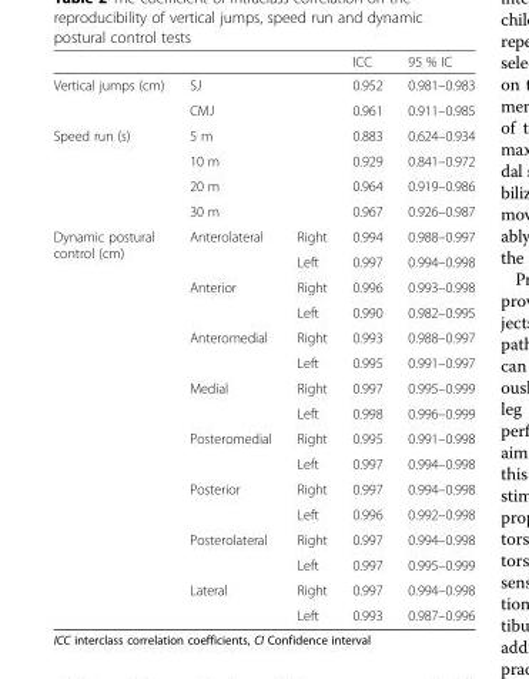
<table><thead><tr><td></td><td></td><td></td><td>ICC</td><td>95 % IC</td></tr></thead><tbody><tr><td rowspan="2">Vertical jumps (cm)</td><td colspan="2">SJ</td><td>0.952</td><td>0.981–0.983</td></tr><tr><td colspan="2">CMJ</td><td>0.961</td><td>0.911–0.985</td></tr><tr><td rowspan="4">Speed run (s)</td><td colspan="2">5 m</td><td>0.883</td><td>0.624–0.934</td></tr><tr><td colspan="2">10 m</td><td>0.929</td><td>0.841–0.972</td></tr><tr><td colspan="2">20 m</td><td>0.964</td><td>0.919–0.986</td></tr><tr><td colspan="2">30 m</td><td>0.967</td><td>0.926–0.987</td></tr><tr><td rowspan="16">Dynamic postural control (cm)</td><td rowspan="2">Anterolateral</td><td>Right</td><td>0.994</td><td>0.988–0.997</td></tr><tr><td>Left</td><td>0.997</td><td>0.994–0.998</td></tr><tr><td rowspan="2">Anterior</td><td>Right</td><td>0.996</td><td>0.993–0.998</td></tr><tr><td>Left</td><td>0.990</td><td>0.982–0.995</td></tr><tr><td rowspan="2">Anteromedial</td><td>Right</td><td>0.993</td><td>0.988–0.997</td></tr><tr><td>Left</td><td>0.995</td><td>0.991–0.997</td></tr><tr><td rowspan="2">Medial</td><td>Right</td><td>0.997</td><td>0.995–0.999</td></tr><tr><td>Left</td><td>0.998</td><td>0.996–0.999</td></tr><tr><td rowspan="2">Posteromedial</td><td>Right</td><td>0.995</td><td>0.991–0.998</td></tr><tr><td>Left</td><td>0.997</td><td>0.994–0.998</td></tr><tr><td rowspan="2">Posterior</td><td>Right</td><td>0.997</td><td>0.994–0.998</td></tr><tr><td>Left</td><td>0.996</td><td>0.992–0.998</td></tr><tr><td rowspan="2">Posterolateral</td><td>Right</td><td>0.997</td><td>0.994–0.998</td></tr><tr><td>Left</td><td>0.997</td><td>0.995–0.999</td></tr><tr><td rowspan="2">Lateral</td><td>Right</td><td>0.997</td><td>0.994–0.998</td></tr><tr><td>Left</td><td>0.993</td><td>0.987–0.996</td></tr></tbody></table>